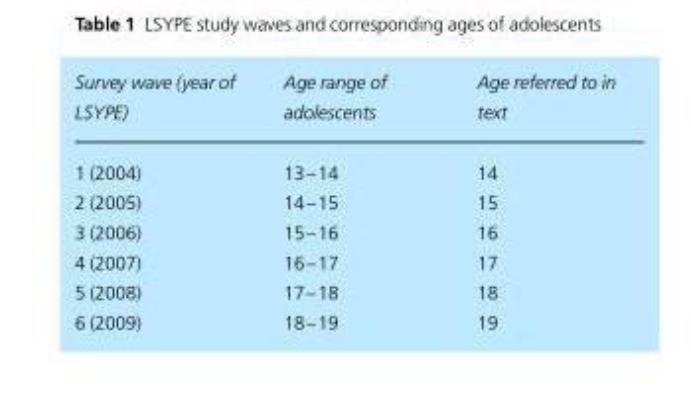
<table><thead><tr><td>Survey wave (year of LSYPE)</td><td>Age range of adolescents</td><td>Age referred to in text</td></tr></thead><tbody><tr><td>1 (2004)</td><td>13–14</td><td>14</td></tr><tr><td>2 (2005)</td><td>14–15</td><td>15</td></tr><tr><td>3 (2006)</td><td>15–16</td><td>16</td></tr><tr><td>4 (2007)</td><td>16–17</td><td>17</td></tr><tr><td>5 (2008)</td><td>17–18</td><td>18</td></tr><tr><td>6 (2009)</td><td>18–19</td><td>19</td></tr></tbody></table>